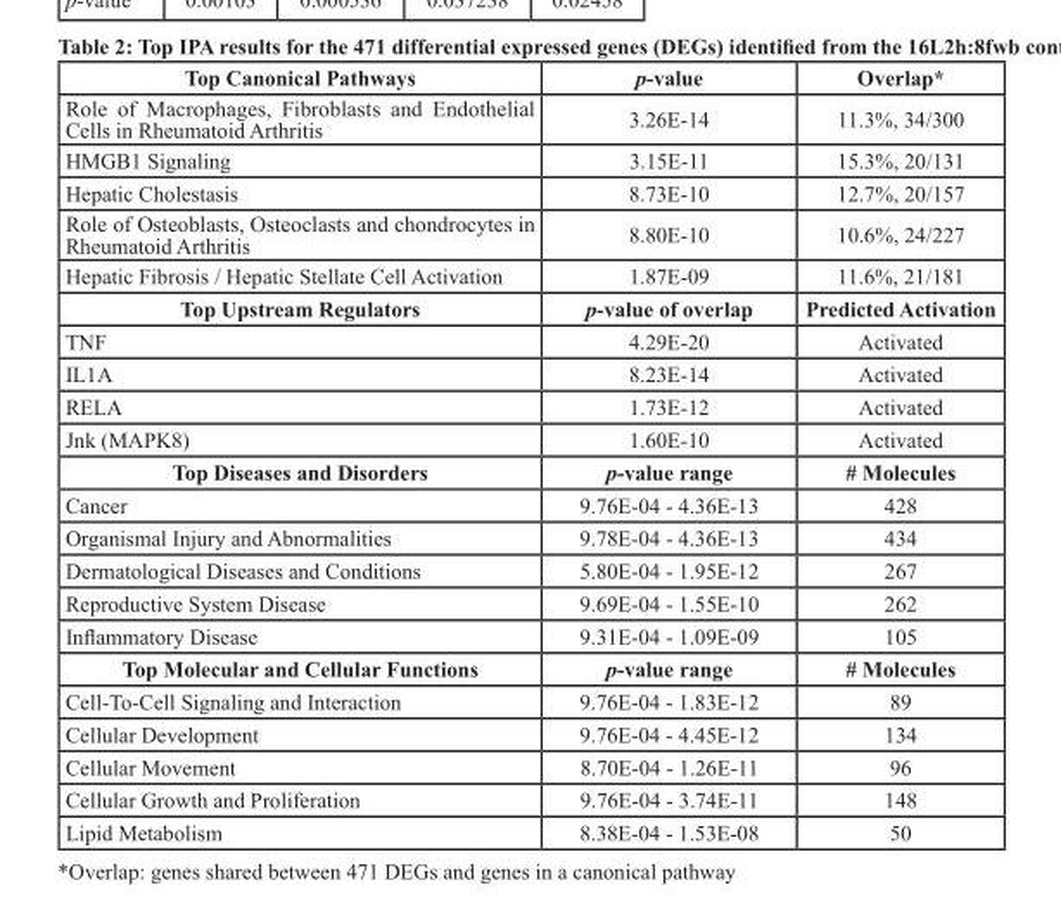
<table><thead><tr><td>Top Canonical Pathways</td><td>p-value</td><td>Overlap*</td></tr></thead><tbody><tr><td>Role of Macrophages, Fibroblasts and Endothelial Cells in Rheumatoid Arthritis</td><td>3.26E-14</td><td>11.3%, 34/300</td></tr><tr><td>HMGB1 Signaling</td><td>3.15E-11</td><td>15.3%, 20/131</td></tr><tr><td>Hepatic Cholestasis</td><td>8.73E-10</td><td>12.7%, 20/157</td></tr><tr><td>Role of Osteoblasts, Osteoclasts and chondrocytes in Rheumatoid Arthritis</td><td>8.80E-10</td><td>10.6%, 24/227</td></tr><tr><td>Hepatic Fibrosis / Hepatic Stellate Cell Activation</td><td>1.87E-09</td><td>11.6%, 21/181</td></tr><tr><td>Top Upstream Regulators</td><td>p-value of overlap</td><td>Predicted Activation</td></tr><tr><td>TNF</td><td>4.29E-20</td><td>Activated</td></tr><tr><td>IL1A</td><td>8.23E-14</td><td>Activated</td></tr><tr><td>RELA</td><td>1.73E-12</td><td>Activated</td></tr><tr><td>Jnk (MAPK8)</td><td>1.60E-10</td><td>Activated</td></tr><tr><td>Top Diseases and Disorders</td><td>p-value range</td><td># Molecules</td></tr><tr><td>Cancer</td><td>9.76E-04 - 4.36E-13</td><td>428</td></tr><tr><td>Organismal Injury and Abnormalities</td><td>9.78E-04 - 4.36E-13</td><td>434</td></tr><tr><td>Dermatological Diseases and Conditions</td><td>5.80E-04 - 1.95E-12</td><td>267</td></tr><tr><td>Reproductive System Disease</td><td>9.69E-04 - 1.55E-10</td><td>262</td></tr><tr><td>Inflammatory Disease</td><td>9.31E-04 - 1.09E-09</td><td>105</td></tr><tr><td>Top Molecular and Cellular Functions</td><td>p-value range</td><td># Molecules</td></tr><tr><td>Cell-To-Cell Signaling and Interaction</td><td>9.76E-04 - 1.83E-12</td><td>89</td></tr><tr><td>Cellular Development</td><td>9.76E-04 - 4.45E-12</td><td>134</td></tr><tr><td>Cellular Movement</td><td>8.70E-04 - 1.26E-11</td><td>96</td></tr><tr><td>Cellular Growth and Proliferation</td><td>9.76E-04 - 3.74E-11</td><td>148</td></tr><tr><td>Lipid Metabolism</td><td>8.38E-04 - 1.53E-08</td><td>50</td></tr></tbody></table>